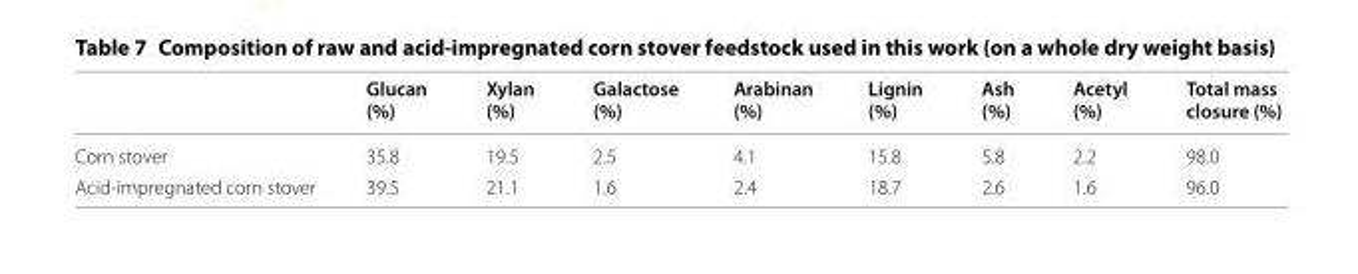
<table><thead><tr><td></td><td>Glucan (%)</td><td>Xylan (%)</td><td>Galactose (%)</td><td>Arabinan (%)</td><td>Lignin (%)</td><td>Ash (%)</td><td>Acetyl (%)</td><td>Total mass closure (%)</td></tr></thead><tbody><tr><td>Corn stover</td><td>35.8</td><td>19.5</td><td>2.5</td><td>4.1</td><td>15.8</td><td>5.8</td><td>2.2</td><td>98.0</td></tr><tr><td>Acid-impregnated corn stover</td><td>39.5</td><td>21.1</td><td>1.6</td><td>2.4</td><td>18.7</td><td>2.6</td><td>1.6</td><td>96.0</td></tr></tbody></table>